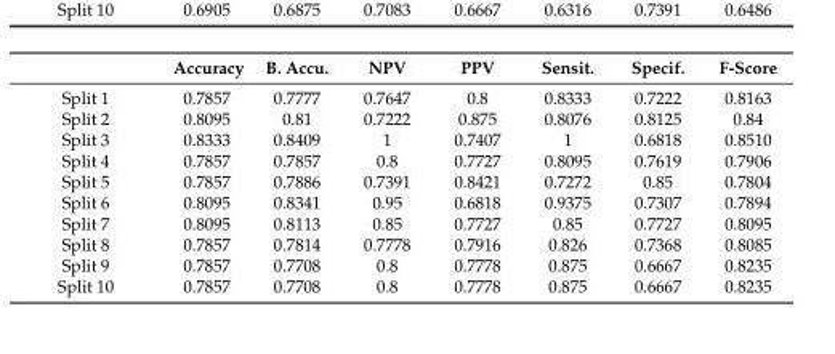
<table><thead><tr><td></td><td>Accuracy</td><td>B. Accu.</td><td>NPV</td><td>PPV</td><td>Sensit.</td><td>Specif.</td><td>F-Score</td></tr></thead><tbody><tr><td>Split 1</td><td>0.7857</td><td>0.7777</td><td>0.7647</td><td>0.8</td><td>0.8333</td><td>0.7222</td><td>0.8163</td></tr><tr><td>Split 2</td><td>0.8095</td><td>0.81</td><td>0.7222</td><td>0.875</td><td>0.8076</td><td>0.8125</td><td>0.84</td></tr><tr><td>Split 3</td><td>0.8333</td><td>0.8409</td><td>1</td><td>0.7407</td><td>1</td><td>0.6818</td><td>0.8510</td></tr><tr><td>Split 4</td><td>0.7857</td><td>0.7857</td><td>0.8</td><td>0.7727</td><td>0.8095</td><td>0.7619</td><td>0.7906</td></tr><tr><td>Split 5</td><td>0.7857</td><td>0.7886</td><td>0.7391</td><td>0.8421</td><td>0.7272</td><td>0.85</td><td>0.7804</td></tr><tr><td>Split 6</td><td>0.8095</td><td>0.8341</td><td>0.95</td><td>0.6818</td><td>0.9375</td><td>0.7307</td><td>0.7894</td></tr><tr><td>Split 7</td><td>0.8095</td><td>0.8113</td><td>0.85</td><td>0.7727</td><td>0.85</td><td>0.7727</td><td>0.8095</td></tr><tr><td>Split 8</td><td>0.7857</td><td>0.7814</td><td>0.7778</td><td>0.7916</td><td>0.826</td><td>0.7368</td><td>0.8085</td></tr><tr><td>Split 9</td><td>0.7857</td><td>0.7708</td><td>0.8</td><td>0.7778</td><td>0.875</td><td>0.6667</td><td>0.8235</td></tr><tr><td>Split 10</td><td>0.7857</td><td>0.7708</td><td>0.8</td><td>0.7778</td><td>0.875</td><td>0.6667</td><td>0.8235</td></tr></tbody></table>